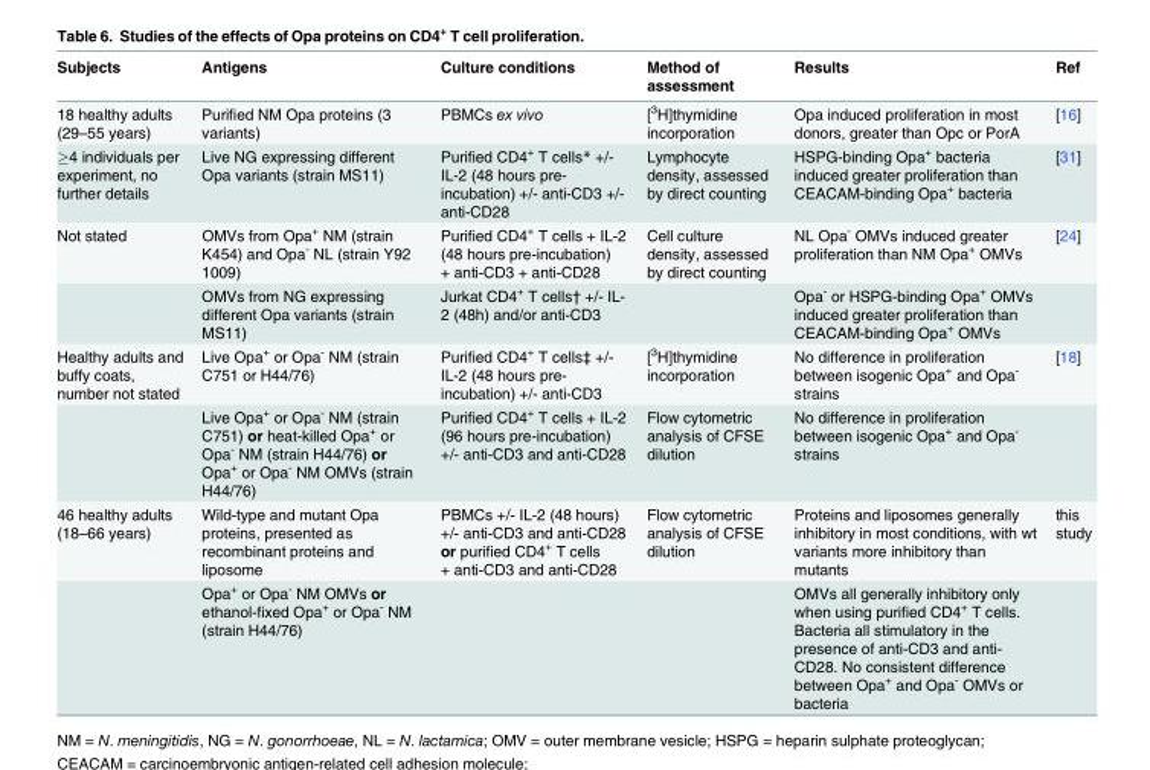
<table><thead><tr><td>Subjects</td><td>Antigens</td><td>Culture conditions</td><td>Method of assessment</td><td>Results</td><td>Ref</td></tr></thead><tbody><tr><td>18 healthy adults (29–55 years)</td><td>Purified NM Opa proteins (3 variants)</td><td>PBMCs ex vivo</td><td>[<sup>3</sup>H]thymidine incorporation</td><td>Opa induced proliferation in most donors, greater than Opc or PorA</td><td>[16]</td></tr><tr><td>≥4 individuals per experiment, no further details</td><td>Live NG expressing different Opa variants (strain MS11)</td><td>Purified CD4<sup>+</sup> T cells* +/- IL-2 (48 hours pre- incubation) +/- anti-CD3 +/- anti-CD28</td><td>Lymphocyte density, assessed by direct counting</td><td>HSPG-binding Opa<sup>+</sup> bacteria induced greater proliferation than CEACAM-binding Opa<sup>+</sup> bacteria</td><td>[31]</td></tr><tr><td rowspan="2">Not stated</td><td>OMVs from Opa<sup>+</sup> NM (strain K454) and Opa<sup>-</sup> NL (strain Y92 1009)</td><td>Purified CD4<sup>+</sup> T cells + IL-2 (48 hours pre-incubation) + anti-CD3 + anti-CD28</td><td>Cell culture density, assessed by direct counting</td><td>NL Opa<sup>-</sup> OMVs induced greater proliferation than NM Opa<sup>+</sup> OMVs</td><td>[24]</td></tr><tr><td>OMVs from NG expressing different Opa variants (strain MS11)</td><td>Jurkat CD4<sup>+</sup> T cells† +/- IL- 2 (48h) and/or anti-CD3</td><td></td><td>Opa<sup>-</sup> or HSPG-binding Opa<sup>+</sup> OMVs induced greater proliferation than CEACAM-binding Opa<sup>+</sup> OMVs</td><td></td></tr><tr><td rowspan="2">Healthy adults and buffy coats, number not stated</td><td>Live Opa<sup>+</sup> or Opa<sup>-</sup> NM (strain C751 or H44/76)</td><td>Purified CD4<sup>+</sup> T cells‡ +/- IL-2 (48 hours pre- incubation) +/- anti-CD3</td><td>[<sup>3</sup>H]thymidine incorporation</td><td>No difference in proliferation between isogenic Opa<sup>+</sup> and Opa<sup>-</sup> strains</td><td>[18]</td></tr><tr><td>Live Opa<sup>+</sup> or Opa<sup>-</sup> NM (strain C751) or heat-killed Opa<sup>+</sup> or Opa<sup>-</sup> NM (strain H44/76) or Opa<sup>+</sup> or Opa<sup>-</sup> NM OMVs (strain H44/76)</td><td>Purified CD4<sup>+</sup> T cells + IL-2 (96 hours pre-incubation) +/- anti-CD3 and anti-CD28</td><td>Flow cytometric analysis of CFSE dilution</td><td>No difference in proliferation between isogenic Opa<sup>+</sup> and Opa<sup>-</sup> strains</td><td></td></tr><tr><td rowspan="2">46 healthy adults (18–66 years)</td><td>Wild-type and mutant Opa proteins, presented as recombinant proteins and liposome</td><td>PBMCs +/- IL-2 (48 hours) +/- anti-CD3 and anti-CD28 or purified CD4<sup>+</sup> T cells + anti-CD3 and anti-CD28</td><td>Flow cytometric analysis of CFSE dilution</td><td>Proteins and liposomes generally inhibitory in most conditions, with wt variants more inhibitory than mutants</td><td>this study</td></tr><tr><td>Opa<sup>+</sup> or Opa<sup>-</sup> NM OMVs or ethanol-fixed Opa<sup>+</sup> or Opa<sup>-</sup> NM (strain H44/76)</td><td></td><td></td><td>OMVs all generally inhibitory only when using purified CD4<sup>+</sup> T cells. Bacteria all stimulatory in the presence of anti-CD3 and anti- CD28. No consistent difference between Opa<sup>+</sup> and Opa<sup>-</sup> OMVs or bacteria</td><td></td></tr></tbody></table>